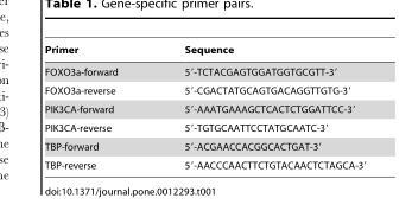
<table><thead><tr><td>Primer</td><td>Sequence</td></tr></thead><tbody><tr><td>FOXO3a-forward</td><td>5′-TCTACGAGTGGATGGTGCGTT-3′</td></tr><tr><td>FOXO3a-reverse</td><td>5′-CGACTATGCAGTGACAGGTTGTG-3′</td></tr><tr><td>PIK3CA-forward</td><td>5′-AAATGAAAGCTCACTCTGGATTCC-3′</td></tr><tr><td>PIK3CA-reverse</td><td>5′-TGTGCAATTCCTATGCAATC-3′</td></tr><tr><td>TBP-forward</td><td>5′-ACGAACCACGGCACTGAT-3′</td></tr><tr><td>TBP-reverse</td><td>5′-AACCCAACTTCTGTACAACTCTAGCA-3′</td></tr></tbody></table>